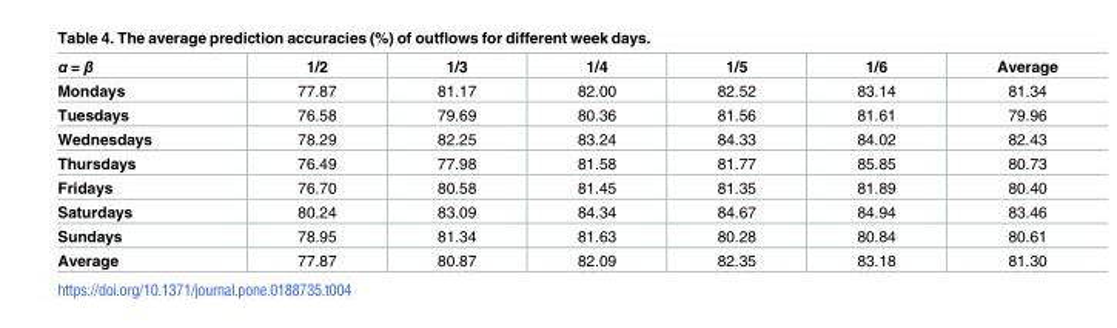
<table><thead><tr><td>α = β</td><td>1/2</td><td>1/3</td><td>1/4</td><td>1/5</td><td>1/6</td><td>Average</td></tr></thead><tbody><tr><td>Mondays</td><td>77.87</td><td>81.17</td><td>82.00</td><td>82.52</td><td>83.14</td><td>81.34</td></tr><tr><td>Tuesdays</td><td>76.58</td><td>79.69</td><td>80.36</td><td>81.56</td><td>81.61</td><td>79.96</td></tr><tr><td>Wednesdays</td><td>78.29</td><td>82.25</td><td>83.24</td><td>84.33</td><td>84.02</td><td>82.43</td></tr><tr><td>Thursdays</td><td>76.49</td><td>77.98</td><td>81.58</td><td>81.77</td><td>85.85</td><td>80.73</td></tr><tr><td>Fridays</td><td>76.70</td><td>80.58</td><td>81.45</td><td>81.35</td><td>81.89</td><td>80.40</td></tr><tr><td>Saturdays</td><td>80.24</td><td>83.09</td><td>84.34</td><td>84.67</td><td>84.94</td><td>83.46</td></tr><tr><td>Sundays</td><td>78.95</td><td>81.34</td><td>81.63</td><td>80.28</td><td>80.84</td><td>80.61</td></tr><tr><td>Average</td><td>77.87</td><td>80.87</td><td>82.09</td><td>82.35</td><td>83.18</td><td>81.30</td></tr></tbody></table>